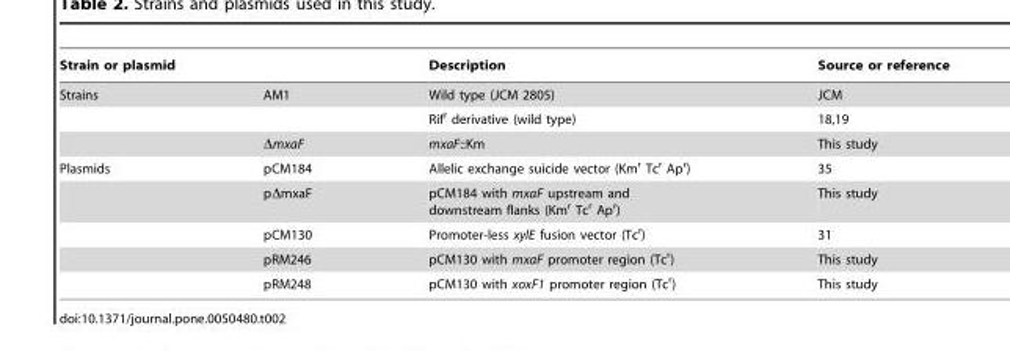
<table><thead><tr><td colspan="2">Strain or plasmid</td><td rowspan="2">Description Wild type (JCM 2805)</td><td rowspan="2">Source or reference JCM</td></tr><tr><td>Strains</td><td>AM1</td></tr></thead><tbody><tr><td></td><td></td><td>Rif<sup>r</sup> derivative (wild type)</td><td>18,19</td></tr><tr><td></td><td>ΔmxaF</td><td>mxaF::Km</td><td>This study</td></tr><tr><td rowspan="5">Plasmids</td><td>pCM184</td><td>Allelic exchange suicide vector (Km<sup>r</sup> Tc<sup>r</sup> Ap<sup>r</sup>)</td><td>35</td></tr><tr><td>pΔmxaF</td><td>pCM184 with mxaF upstream and downstream flanks (Km<sup>r</sup> Tc<sup>r</sup> Ap<sup>r</sup>)</td><td>This study</td></tr><tr><td>pCM130</td><td>Promoter-less xylE fusion vector (Tc<sup>r</sup>)</td><td>31</td></tr><tr><td>pRM246</td><td>pCM130 with mxaF promoter region (Tc<sup>r</sup>)</td><td>This study</td></tr><tr><td>pRM248</td><td>pCM130 with xoxF1 promoter region (Tc<sup>r</sup>)</td><td>This study</td></tr></tbody></table>